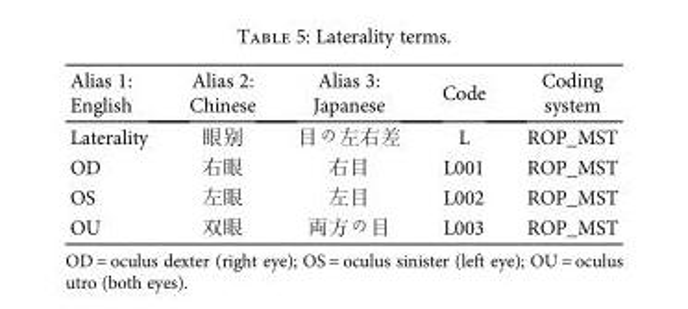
<table><thead><tr><td>Alias 1: English</td><td>Alias 2: Chinese</td><td>Alias 3: Japanese</td><td>Code</td><td>Coding system</td></tr></thead><tbody><tr><td>Laterality</td><td>眼别</td><td>目の左右差</td><td>L</td><td>ROP_MST</td></tr><tr><td>OD</td><td>右眼</td><td>右目</td><td>L001</td><td>ROP_MST</td></tr><tr><td>OS</td><td>左眼</td><td>左目</td><td>L002</td><td>ROP_MST</td></tr><tr><td>OU</td><td>双眼</td><td>両方の目</td><td>L003</td><td>ROP_MST</td></tr></tbody></table>